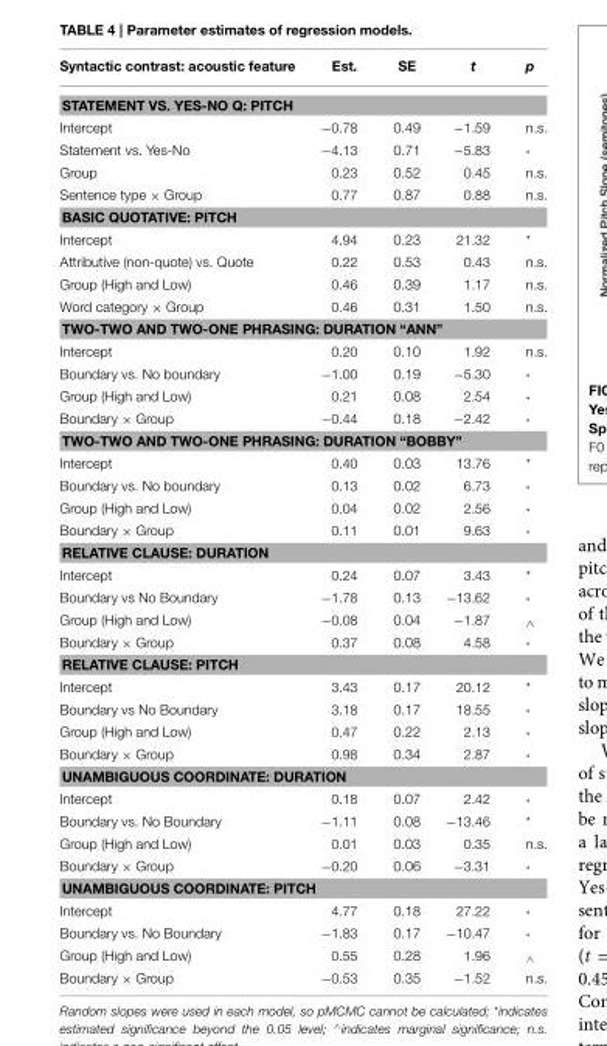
<table><thead><tr><td>Syntactic contrast: acoustic feature</td><td>Est.</td><td>SE</td><td>t</td><td>p</td></tr></thead><tbody><tr><td colspan="5">STATEMENT VS. YES-NO Q: PITCH</td></tr><tr><td>Intercept</td><td>−0.78</td><td>0.49</td><td>−1.59</td><td>n.s.</td></tr><tr><td>Statement vs. Yes-No</td><td>−4.13</td><td>0.71</td><td>−5.83</td><td>*</td></tr><tr><td>Group</td><td>0.23</td><td>0.52</td><td>0.45</td><td>n.s.</td></tr><tr><td>Sentence type × Group</td><td>0.77</td><td>0.87</td><td>0.88</td><td>n.s.</td></tr><tr><td colspan="5">BASIC QUOTATIVE: PITCH</td></tr><tr><td>Intercept</td><td>4.94</td><td>0.23</td><td>21.32</td><td>*</td></tr><tr><td>Attributive (non-quote) vs. Quote</td><td>0.22</td><td>0.53</td><td>0.43</td><td>n.s.</td></tr><tr><td>Group (High and Low)</td><td>0.46</td><td>0.39</td><td>1.17</td><td>n.s.</td></tr><tr><td>Word category × Group</td><td>0.46</td><td>0.31</td><td>1.50</td><td>n.s.</td></tr><tr><td colspan="5">TWO-TWO AND TWO-ONE PHRASING: DURATION “ANN”</td></tr><tr><td>Intercept</td><td>0.20</td><td>0.10</td><td>1.92</td><td>n.s.</td></tr><tr><td>Boundary vs. No boundary</td><td>−1.00</td><td>0.19</td><td>−5.30</td><td>*</td></tr><tr><td>Group (High and Low)</td><td>0.21</td><td>0.08</td><td>2.54</td><td>*</td></tr><tr><td>Boundary × Group</td><td>−0.44</td><td>0.18</td><td>−2.42</td><td>*</td></tr><tr><td colspan="5">TWO-TWO AND TWO-ONE PHRASING: DURATION “BOBBY”</td></tr><tr><td>Intercept</td><td>0.40</td><td>0.03</td><td>13.76</td><td>*</td></tr><tr><td>Boundary vs. No boundary</td><td>0.13</td><td>0.02</td><td>6.73</td><td>*</td></tr><tr><td>Group (High and Low)</td><td>0.04</td><td>0.02</td><td>2.56</td><td>*</td></tr><tr><td>Boundary × Group</td><td>0.11</td><td>0.01</td><td>9.63</td><td>*</td></tr><tr><td colspan="5">RELATIVE CLAUSE: DURATION</td></tr><tr><td>Intercept</td><td>0.24</td><td>0.07</td><td>3.43</td><td>*</td></tr><tr><td>Boundary vs No Boundary</td><td>−1.78</td><td>0.13</td><td>−13.62</td><td>*</td></tr><tr><td>Group (High and Low)</td><td>−0.08</td><td>0.04</td><td>−1.87</td><td><sup>∧</sup></td></tr><tr><td>Boundary × Group</td><td>0.37</td><td>0.08</td><td>4.58</td><td>*</td></tr><tr><td colspan="5">RELATIVE CLAUSE: PITCH</td></tr><tr><td>Intercept</td><td>3.43</td><td>0.17</td><td>20.12</td><td>*</td></tr><tr><td>Boundary vs No Boundary</td><td>3.18</td><td>0.17</td><td>18.55</td><td>*</td></tr><tr><td>Group (High and Low)</td><td>0.47</td><td>0.22</td><td>2.13</td><td>*</td></tr><tr><td>Boundary × Group</td><td>0.98</td><td>0.34</td><td>2.87</td><td>*</td></tr><tr><td colspan="5">UNAMBIGUOUS COORDINATE: DURATION</td></tr><tr><td>Intercept</td><td>0.18</td><td>0.07</td><td>2.42</td><td>*</td></tr><tr><td>Boundary vs. No Boundary</td><td>−1.11</td><td>0.08</td><td>−13.46</td><td>*</td></tr><tr><td>Group (High and Low)</td><td>0.01</td><td>0.03</td><td>0.35</td><td>n.s.</td></tr><tr><td>Boundary × Group</td><td>−0.20</td><td>0.06</td><td>−3.31</td><td>*</td></tr><tr><td colspan="5">UNAMBIGUOUS COORDINATE: PITCH</td></tr><tr><td>Intercept</td><td>4.77</td><td>0.18</td><td>27.22</td><td>*</td></tr><tr><td>Boundary vs. No Boundary</td><td>−1.83</td><td>0.17</td><td>−10.47</td><td>*</td></tr><tr><td>Group (High and Low)</td><td>0.55</td><td>0.28</td><td>1.96</td><td><sup>∧</sup></td></tr><tr><td>Boundary × Group</td><td>−0.53</td><td>0.35</td><td>−1.52</td><td>n.s.</td></tr></tbody></table>